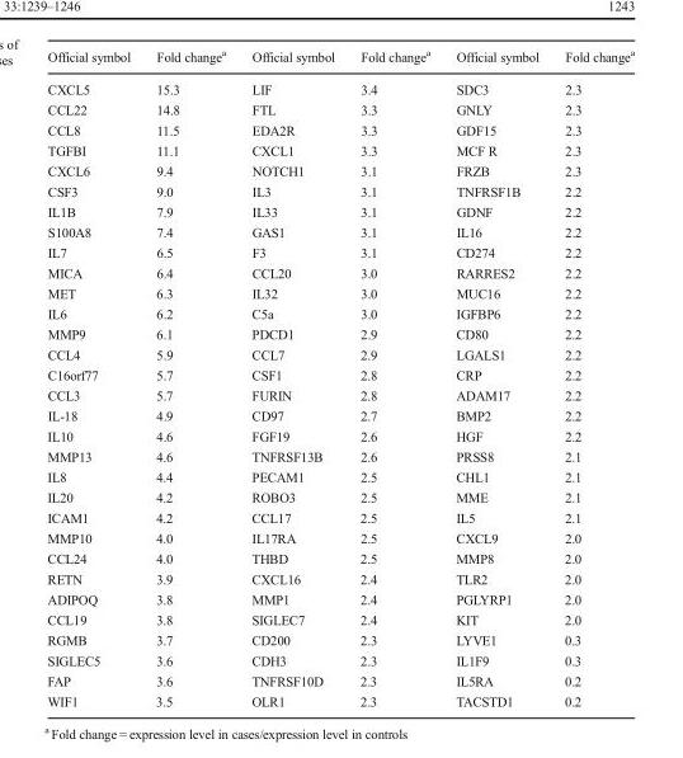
<table><thead><tr><td>Official symbol</td><td>Fold change<sup>a</sup></td><td>Official symbol</td><td>Fold change<sup>a</sup></td><td>Official symbol</td><td>Fold change<sup>a</sup></td></tr></thead><tbody><tr><td>CXCL5</td><td>15.3</td><td>LIF</td><td>3.4</td><td>SDC3</td><td>2.3</td></tr><tr><td>CCL22</td><td>14.8</td><td>FTL</td><td>3.3</td><td>GNLY</td><td>2.3</td></tr><tr><td>CCL8</td><td>11.5</td><td>EDA2R</td><td>3.3</td><td>GDF15</td><td>2.3</td></tr><tr><td>TGFBI</td><td>11.1</td><td>CXCL1</td><td>3.3</td><td>MCF R</td><td>2.3</td></tr><tr><td>CXCL6</td><td>9.4</td><td>NOTCH1</td><td>3.1</td><td>FRZB</td><td>2.3</td></tr><tr><td>CSF3</td><td>9.0</td><td>IL3</td><td>3.1</td><td>TNFRSF1B</td><td>2.2</td></tr><tr><td>IL1B</td><td>7.9</td><td>IL33</td><td>3.1</td><td>GDNF</td><td>2.2</td></tr><tr><td>S100A8</td><td>7.4</td><td>GAS1</td><td>3.1</td><td>IL16</td><td>2.2</td></tr><tr><td>IL7</td><td>6.5</td><td>F3</td><td>3.1</td><td>CD274</td><td>2.2</td></tr><tr><td>MICA</td><td>6.4</td><td>CCL20</td><td>3.0</td><td>RARRES2</td><td>2.2</td></tr><tr><td>MET</td><td>6.3</td><td>IL32</td><td>3.0</td><td>MUC16</td><td>2.2</td></tr><tr><td>IL6</td><td>6.2</td><td>C5a</td><td>3.0</td><td>IGFBP6</td><td>2.2</td></tr><tr><td>MMP9</td><td>6.1</td><td>PDCD1</td><td>2.9</td><td>CD80</td><td>2.2</td></tr><tr><td>CCL4</td><td>5.9</td><td>CCL7</td><td>2.9</td><td>LGALS1</td><td>2.2</td></tr><tr><td>C16orf77</td><td>5.7</td><td>CSF1</td><td>2.8</td><td>CRP</td><td>2.2</td></tr><tr><td>CCL3</td><td>5.7</td><td>FURIN</td><td>2.8</td><td>ADAM17</td><td>2.2</td></tr><tr><td>IL-18</td><td>4.9</td><td>CD97</td><td>2.7</td><td>BMP2</td><td>2.2</td></tr><tr><td>IL10</td><td>4.6</td><td>FGF19</td><td>2.6</td><td>HGF</td><td>2.2</td></tr><tr><td>MMP13</td><td>4.6</td><td>TNFRSF13B</td><td>2.6</td><td>PRSS8</td><td>2.1</td></tr><tr><td>IL8</td><td>4.4</td><td>PECAM1</td><td>2.5</td><td>CHL1</td><td>2.1</td></tr><tr><td>IL20</td><td>4.2</td><td>ROBO3</td><td>2.5</td><td>MME</td><td>2.1</td></tr><tr><td>ICAM1</td><td>4.2</td><td>CCL17</td><td>2.5</td><td>IL5</td><td>2.1</td></tr><tr><td>MMP10</td><td>4.0</td><td>IL17RA</td><td>2.5</td><td>CXCL9</td><td>2.0</td></tr><tr><td>CCL24</td><td>4.0</td><td>THBD</td><td>2.5</td><td>MMP8</td><td>2.0</td></tr><tr><td>RETN</td><td>3.9</td><td>CXCL16</td><td>2.4</td><td>TLR2</td><td>2.0</td></tr><tr><td>ADIPOQ</td><td>3.8</td><td>MMP1</td><td>2.4</td><td>PGLYRP1</td><td>2.0</td></tr><tr><td>CCL19</td><td>3.8</td><td>SIGLEC7</td><td>2.4</td><td>KIT</td><td>2.0</td></tr><tr><td>RGMB</td><td>3.7</td><td>CD200</td><td>2.3</td><td>LYVE1</td><td>0.3</td></tr><tr><td>SIGLEC5</td><td>3.6</td><td>CDH3</td><td>2.3</td><td>IL1F9</td><td>0.3</td></tr><tr><td>FAP</td><td>3.6</td><td>TNFRSF10D</td><td>2.3</td><td>IL5RA</td><td>0.2</td></tr><tr><td>WIF1</td><td>3.5</td><td>OLR1</td><td>2.3</td><td>TACSTD1</td><td>0.2</td></tr></tbody></table>